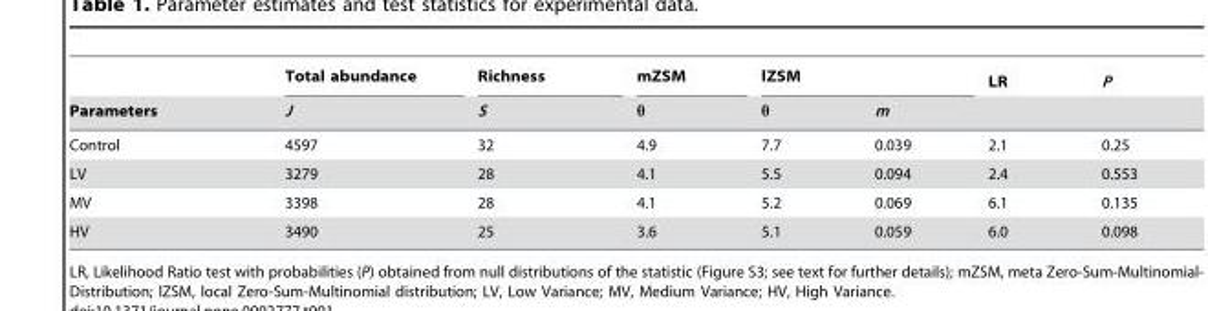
<table><thead><tr><td rowspan="2">Parameters</td><td rowspan="2">Total abundance J</td><td rowspan="2">Richness S</td><td rowspan="2">mZSM θ</td><td colspan="2">lZSM</td><td rowspan="2">LR</td><td rowspan="2">P</td></tr><tr><td>θ</td><td>m</td></tr></thead><tbody><tr><td>Control</td><td>4597</td><td>32</td><td>4.9</td><td>7.7</td><td>0.039</td><td>2.1</td><td>0.25</td></tr><tr><td>LV</td><td>3279</td><td>28</td><td>4.1</td><td>5.5</td><td>0.094</td><td>2.4</td><td>0.553</td></tr><tr><td>MV</td><td>3398</td><td>28</td><td>4.1</td><td>5.2</td><td>0.069</td><td>6.1</td><td>0.135</td></tr><tr><td>HV</td><td>3490</td><td>25</td><td>3.6</td><td>5.1</td><td>0.059</td><td>6.0</td><td>0.098</td></tr></tbody></table>